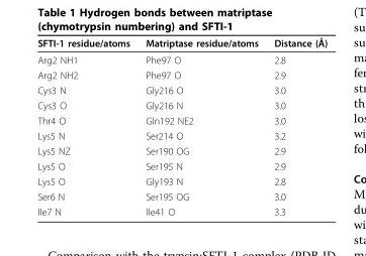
<table><thead><tr><td>SFTI-1 residue/atoms</td><td>Matriptase residue/atoms</td><td>Distance (Å)</td></tr></thead><tbody><tr><td>Arg2 NH1</td><td>Phe97 O</td><td>2.8</td></tr><tr><td>Arg2 NH2</td><td>Phe97 O</td><td>2.9</td></tr><tr><td>Cys3 N</td><td>Gly216 O</td><td>3.0</td></tr><tr><td>Cys3 O</td><td>Gly216 N</td><td>3.0</td></tr><tr><td>Thr4 O</td><td>Gln192 NE2</td><td>3.0</td></tr><tr><td>Lys5 N</td><td>Ser214 O</td><td>3.2</td></tr><tr><td>Lys5 NZ</td><td>Ser190 OG</td><td>2.9</td></tr><tr><td>Lys5 O</td><td>Ser195 N</td><td>2.9</td></tr><tr><td>Lys5 O</td><td>Gly193 N</td><td>2.8</td></tr><tr><td>Ser6 N</td><td>Ser195 OG</td><td>3.0</td></tr><tr><td>Ile7 N</td><td>Ile41 O</td><td>3.3</td></tr></tbody></table>